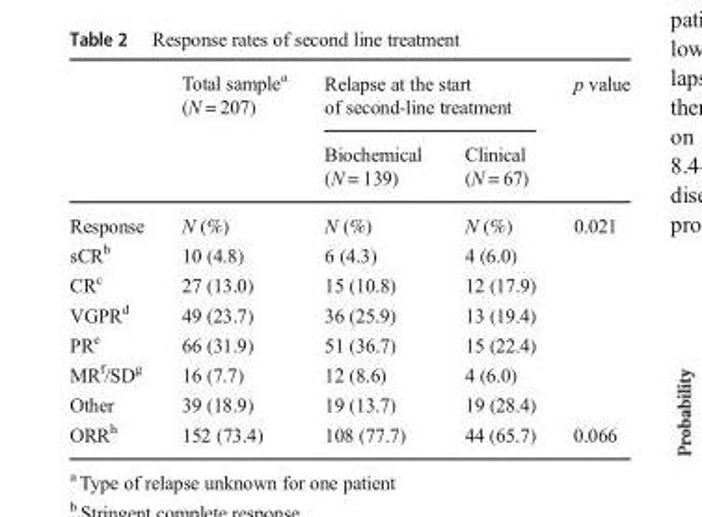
<table><thead><tr><td rowspan="2"></td><td rowspan="2">Total sample<sup>a</sup> (N = 207)</td><td colspan="2">Relapse at the start of second-line treatment</td><td rowspan="2">p value</td></tr><tr><td>Biochemical (N = 139)</td><td>Clinical (N = 67)</td></tr></thead><tbody><tr><td>Response</td><td>N (%)</td><td>N (%)</td><td>N (%)</td><td>0.021</td></tr><tr><td>sCR<sup>b</sup></td><td>10 (4.8)</td><td>6 (4.3)</td><td>4 (6.0)</td><td></td></tr><tr><td>CR<sup>c</sup></td><td>27 (13.0)</td><td>15 (10.8)</td><td>12 (17.9)</td><td></td></tr><tr><td>VGPR<sup>d</sup></td><td>49 (23.7)</td><td>36 (25.9)</td><td>13 (19.4)</td><td></td></tr><tr><td>PR<sup>e</sup></td><td>66 (31.9)</td><td>51 (36.7)</td><td>15 (22.4)</td><td></td></tr><tr><td>MR<sup>f</sup>/SD<sup>g</sup></td><td>16 (7.7)</td><td>12 (8.6)</td><td>4 (6.0)</td><td></td></tr><tr><td>Other</td><td>39 (18.9)</td><td>19 (13.7)</td><td>19 (28.4)</td><td></td></tr><tr><td>ORR<sup>h</sup></td><td>152 (73.4)</td><td>108 (77.7)</td><td>44 (65.7)</td><td>0.066</td></tr></tbody></table>